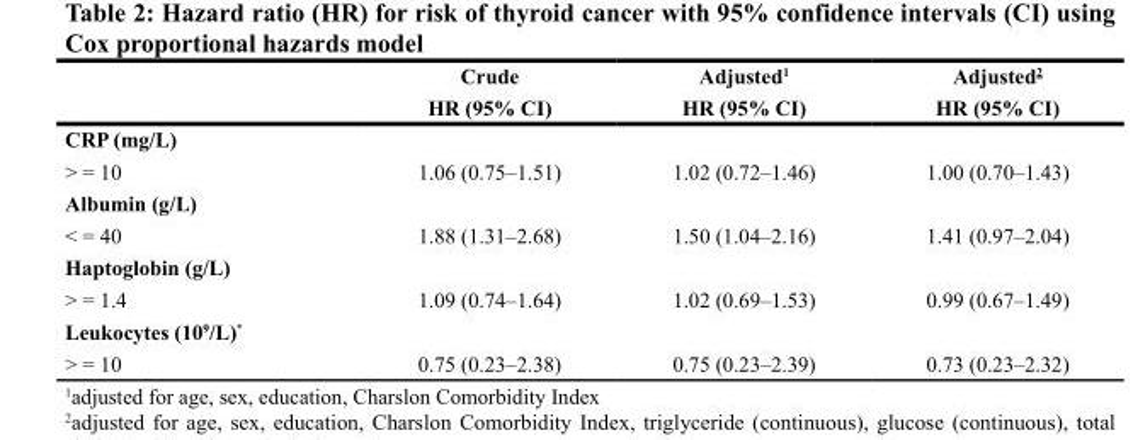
<table><thead><tr><td rowspan="2"></td><td rowspan="2">Crude HR (95% CI)</td><td rowspan="2">Adjusted<sup>1</sup> HR (95% CI)</td><td rowspan="2">Adjusted<sup>2</sup> HR (95% CI)</td></tr><tr></tr></thead><tbody><tr><td colspan="4">CRP (mg/L)</td></tr><tr><td>&gt; = 10</td><td>1.06 (0.75–1.51)</td><td>1.02 (0.72–1.46)</td><td>1.00 (0.70–1.43)</td></tr><tr><td colspan="4">Albumin (g/L)</td></tr><tr><td>&lt; = 40</td><td>1.88 (1.31–2.68)</td><td>1.50 (1.04–2.16)</td><td>1.41 (0.97–2.04)</td></tr><tr><td colspan="4">Haptoglobin (g/L)</td></tr><tr><td>&gt; = 1.4</td><td>1.09 (0.74–1.64)</td><td>1.02 (0.69–1.53)</td><td>0.99 (0.67–1.49)</td></tr><tr><td colspan="4">Leukocytes (10<sup>9</sup>/L)*</td></tr><tr><td>&gt; = 10</td><td>0.75 (0.23–2.38)</td><td>0.75 (0.23–2.39)</td><td>0.73 (0.23–2.32)</td></tr></tbody></table>